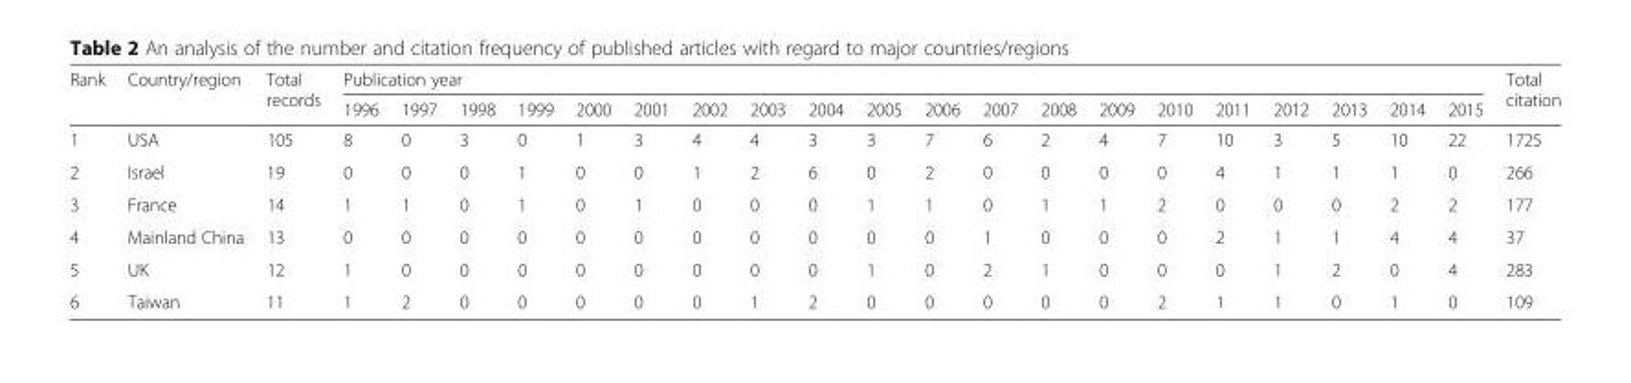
<table><thead><tr><td rowspan="2">Rank</td><td rowspan="2">Country/region</td><td rowspan="2">Total records</td><td colspan="20">Publication year</td><td rowspan="2">Total citation</td></tr><tr><td>1996</td><td>1997</td><td>1998</td><td>1999</td><td>2000</td><td>2001</td><td>2002</td><td>2003</td><td>2004</td><td>2005</td><td>2006</td><td>2007</td><td>2008</td><td>2009</td><td>2010</td><td>2011</td><td>2012</td><td>2013</td><td>2014</td><td>2015</td></tr></thead><tbody><tr><td>1</td><td>USA</td><td>105</td><td>8</td><td>0</td><td>3</td><td>0</td><td>1</td><td>3</td><td>4</td><td>4</td><td>3</td><td>3</td><td>7</td><td>6</td><td>2</td><td>4</td><td>7</td><td>10</td><td>3</td><td>5</td><td>10</td><td>22</td><td>1725</td></tr><tr><td>2</td><td>Israel</td><td>19</td><td>0</td><td>0</td><td>0</td><td>1</td><td>0</td><td>0</td><td>1</td><td>2</td><td>6</td><td>0</td><td>2</td><td>0</td><td>0</td><td>0</td><td>0</td><td>4</td><td>1</td><td>1</td><td>1</td><td>0</td><td>266</td></tr><tr><td>3</td><td>France</td><td>14</td><td>1</td><td>1</td><td>0</td><td>1</td><td>0</td><td>1</td><td>0</td><td>0</td><td>0</td><td>1</td><td>1</td><td>0</td><td>1</td><td>1</td><td>2</td><td>0</td><td>0</td><td>0</td><td>2</td><td>2</td><td>177</td></tr><tr><td>4</td><td>Mainland China</td><td>13</td><td>0</td><td>0</td><td>0</td><td>0</td><td>0</td><td>0</td><td>0</td><td>0</td><td>0</td><td>0</td><td>0</td><td>1</td><td>0</td><td>0</td><td>0</td><td>2</td><td>1</td><td>1</td><td>4</td><td>4</td><td>37</td></tr><tr><td>5</td><td>UK</td><td>12</td><td>1</td><td>0</td><td>0</td><td>0</td><td>0</td><td>0</td><td>0</td><td>0</td><td>0</td><td>1</td><td>0</td><td>2</td><td>1</td><td>0</td><td>0</td><td>0</td><td>1</td><td>2</td><td>0</td><td>4</td><td>283</td></tr><tr><td>6</td><td>Taiwan</td><td>11</td><td>1</td><td>2</td><td>0</td><td>0</td><td>0</td><td>0</td><td>0</td><td>1</td><td>2</td><td>0</td><td>0</td><td>0</td><td>0</td><td>0</td><td>2</td><td>1</td><td>1</td><td>0</td><td>1</td><td>0</td><td>109</td></tr></tbody></table>